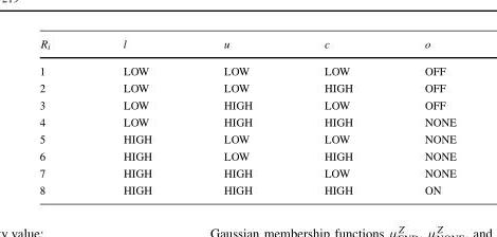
<table><thead><tr><td>R<sub>i</sub></td><td>l</td><td>u</td><td>c</td><td>o</td></tr></thead><tbody><tr><td>1</td><td>LOW</td><td>LOW</td><td>LOW</td><td>OFF</td></tr><tr><td>2</td><td>LOW</td><td>LOW</td><td>HIGH</td><td>OFF</td></tr><tr><td>3</td><td>LOW</td><td>HIGH</td><td>LOW</td><td>OFF</td></tr><tr><td>4</td><td>LOW</td><td>HIGH</td><td>HIGH</td><td>NONE</td></tr><tr><td>5</td><td>HIGH</td><td>LOW</td><td>LOW</td><td>NONE</td></tr><tr><td>6</td><td>HIGH</td><td>LOW</td><td>HIGH</td><td>NONE</td></tr><tr><td>7</td><td>HIGH</td><td>HIGH</td><td>LOW</td><td>NONE</td></tr><tr><td>8</td><td>HIGH</td><td>HIGH</td><td>HIGH</td><td>ON</td></tr></tbody></table>